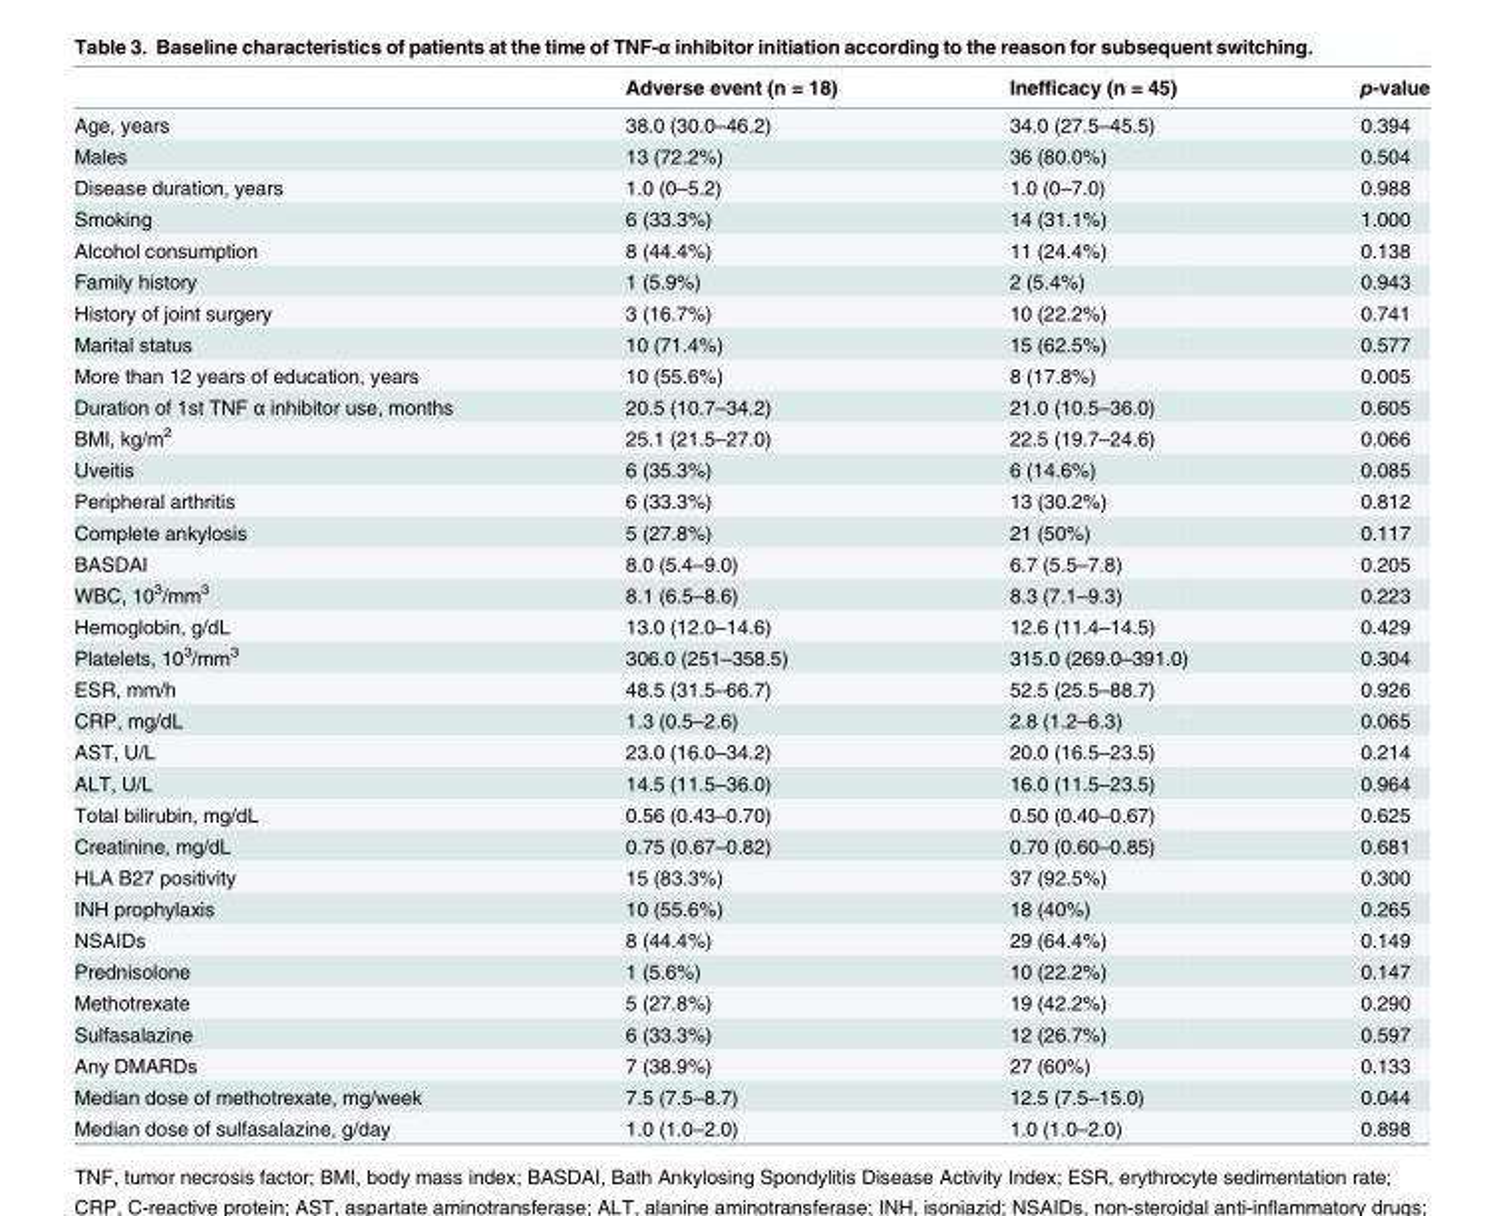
<table><thead><tr><td></td><td>Adverse event (n = 18)</td><td>Inefficacy (n = 45)</td><td>p-value</td></tr></thead><tbody><tr><td>Age, years</td><td>38.0 (30.0–46.2)</td><td>34.0 (27.5–45.5)</td><td>0.394</td></tr><tr><td>Males</td><td>13 (72.2%)</td><td>36 (80.0%)</td><td>0.504</td></tr><tr><td>Disease duration, years</td><td>1.0 (0–5.2)</td><td>1.0 (0–7.0)</td><td>0.988</td></tr><tr><td>Smoking</td><td>6 (33.3%)</td><td>14 (31.1%)</td><td>1.000</td></tr><tr><td>Alcohol consumption</td><td>8 (44.4%)</td><td>11 (24.4%)</td><td>0.138</td></tr><tr><td>Family history</td><td>1 (5.9%)</td><td>2 (5.4%)</td><td>0.943</td></tr><tr><td>History of joint surgery</td><td>3 (16.7%)</td><td>10 (22.2%)</td><td>0.741</td></tr><tr><td>Marital status</td><td>10 (71.4%)</td><td>15 (62.5%)</td><td>0.577</td></tr><tr><td>More than 12 years of education, years</td><td>10 (55.6%)</td><td>8 (17.8%)</td><td>0.005</td></tr><tr><td>Duration of 1st TNF α inhibitor use, months</td><td>20.5 (10.7–34.2)</td><td>21.0 (10.5–36.0)</td><td>0.605</td></tr><tr><td>BMI, kg/m<sup>2</sup></td><td>25.1 (21.5–27.0)</td><td>22.5 (19.7–24.6)</td><td>0.066</td></tr><tr><td>Uveitis</td><td>6 (35.3%)</td><td>6 (14.6%)</td><td>0.085</td></tr><tr><td>Peripheral arthritis</td><td>6 (33.3%)</td><td>13 (30.2%)</td><td>0.812</td></tr><tr><td>Complete ankylosis</td><td>5 (27.8%)</td><td>21 (50%)</td><td>0.117</td></tr><tr><td>BASDAI</td><td>8.0 (5.4–9.0)</td><td>6.7 (5.5–7.8)</td><td>0.205</td></tr><tr><td>WBC, 10<sup>3</sup>/mm<sup>3</sup></td><td>8.1 (6.5–8.6)</td><td>8.3 (7.1–9.3)</td><td>0.223</td></tr><tr><td>Hemoglobin, g/dL</td><td>13.0 (12.0–14.6)</td><td>12.6 (11.4–14.5)</td><td>0.429</td></tr><tr><td>Platelets, 10<sup>3</sup>/mm<sup>3</sup></td><td>306.0 (251–358.5)</td><td>315.0 (269.0–391.0)</td><td>0.304</td></tr><tr><td>ESR, mm/h</td><td>48.5 (31.5–66.7)</td><td>52.5 (25.5–88.7)</td><td>0.926</td></tr><tr><td>CRP, mg/dL</td><td>1.3 (0.5–2.6)</td><td>2.8 (1.2–6.3)</td><td>0.065</td></tr><tr><td>AST, U/L</td><td>23.0 (16.0–34.2)</td><td>20.0 (16.5–23.5)</td><td>0.214</td></tr><tr><td>ALT, U/L</td><td>14.5 (11.5–36.0)</td><td>16.0 (11.5–23.5)</td><td>0.964</td></tr><tr><td>Total bilirubin, mg/dL</td><td>0.56 (0.43–0.70)</td><td>0.50 (0.40–0.67)</td><td>0.625</td></tr><tr><td>Creatinine, mg/dL</td><td>0.75 (0.67–0.82)</td><td>0.70 (0.60–0.85)</td><td>0.681</td></tr><tr><td>HLA B27 positivity</td><td>15 (83.3%)</td><td>37 (92.5%)</td><td>0.300</td></tr><tr><td>INH prophylaxis</td><td>10 (55.6%)</td><td>18 (40%)</td><td>0.265</td></tr><tr><td>NSAIDs</td><td>8 (44.4%)</td><td>29 (64.4%)</td><td>0.149</td></tr><tr><td>Prednisolone</td><td>1 (5.6%)</td><td>10 (22.2%)</td><td>0.147</td></tr><tr><td>Methotrexate</td><td>5 (27.8%)</td><td>19 (42.2%)</td><td>0.290</td></tr><tr><td>Sulfasalazine</td><td>6 (33.3%)</td><td>12 (26.7%)</td><td>0.597</td></tr><tr><td>Any DMARDs</td><td>7 (38.9%)</td><td>27 (60%)</td><td>0.133</td></tr><tr><td>Median dose of methotrexate, mg/week</td><td>7.5 (7.5–8.7)</td><td>12.5 (7.5–15.0)</td><td>0.044</td></tr><tr><td>Median dose of sulfasalazine, g/day</td><td>1.0 (1.0–2.0)</td><td>1.0 (1.0–2.0)</td><td>0.898</td></tr></tbody></table>